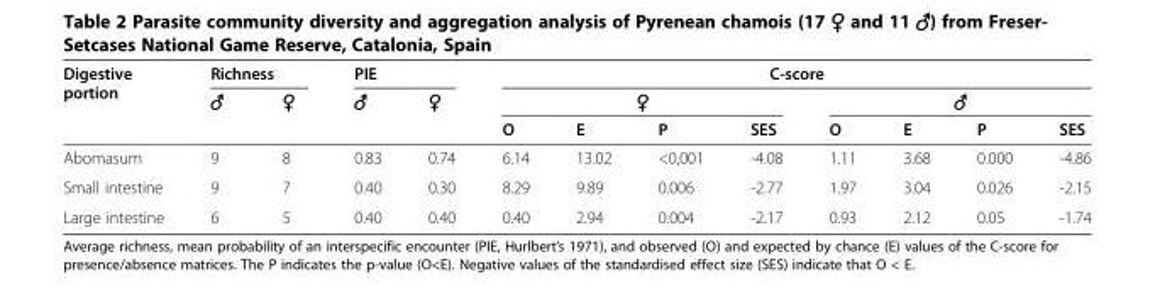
<table><thead><tr><td rowspan="3">Digestive portion</td><td colspan="2">Richness</td><td colspan="2">PIE</td><td colspan="8">C-score</td></tr><tr><td rowspan="2">♂</td><td rowspan="2">♀</td><td rowspan="2">♂</td><td rowspan="2">♀</td><td colspan="4">♀</td><td colspan="4">♂</td></tr><tr><td>O</td><td>E</td><td>P</td><td>SES</td><td>O</td><td>E</td><td>P</td><td>SES</td></tr></thead><tbody><tr><td>Abomasum</td><td>9</td><td>8</td><td>0.83</td><td>0.74</td><td>6.14</td><td>13.02</td><td>&lt;0,001</td><td>-4.08</td><td>1.11</td><td>3.68</td><td>0.000</td><td>-4.86</td></tr><tr><td>Small intestine</td><td>9</td><td>7</td><td>0.40</td><td>0.30</td><td>8.29</td><td>9.89</td><td>0.006</td><td>-2.77</td><td>1.97</td><td>3.04</td><td>0.026</td><td>-2.15</td></tr><tr><td>Large intestine</td><td>6</td><td>5</td><td>0.40</td><td>0.40</td><td>0.40</td><td>2.94</td><td>0.004</td><td>-2.17</td><td>0.93</td><td>2.12</td><td>0.05</td><td>-1.74</td></tr></tbody></table>